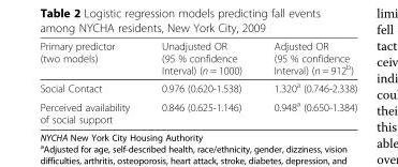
<table><thead><tr><td>Primary predictor (two models)</td><td>Unadjusted OR (95 % confidence Interval) (n = 1000)</td><td>Adjusted OR (95 % confidence Interval) (n = 912<sup>b</sup>)</td></tr></thead><tbody><tr><td>Social Contact</td><td>0.976 (0.620-1.538)</td><td>1.320<sup>a</sup> (0.746-2.338)</td></tr><tr><td>Perceived availability of social support</td><td>0.846 (0.625-1.146)</td><td>0.948<sup>a</sup> (0.650-1.384)</td></tr></tbody></table>